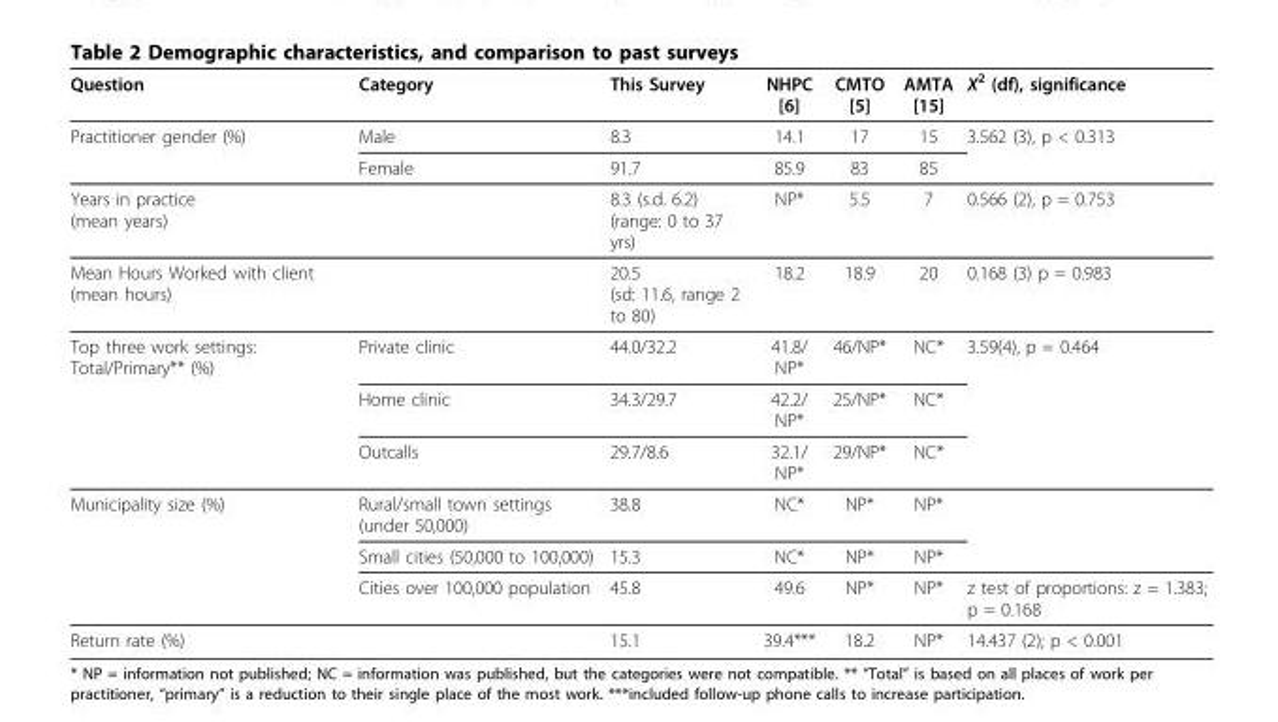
<table><thead><tr><td>Question</td><td>Category</td><td>This Survey</td><td>NHPC [6]</td><td>CMTO [5]</td><td>AMTA [15]</td><td>X<sup>2</sup> (df), significance</td></tr></thead><tbody><tr><td rowspan="2">Practitioner gender (%)</td><td>Male</td><td>8.3</td><td>14.1</td><td>17</td><td>15</td><td>3.562 (3), p &lt; 0.313</td></tr><tr><td>Female</td><td>91.7</td><td>85.9</td><td>83</td><td>85</td><td></td></tr><tr><td>Years in practice (mean years)</td><td></td><td>8.3 (s.d. 6.2) (range: 0 to 37 yrs)</td><td>NP*</td><td>5.5</td><td>7</td><td>0.566 (2), p = 0.753</td></tr><tr><td>Mean Hours Worked with client (mean hours)</td><td></td><td>20.5 (sd: 11.6, range 2 to 80)</td><td>18.2</td><td>18.9</td><td>20</td><td>0.168 (3) p = 0.983</td></tr><tr><td rowspan="3">Top three work settings: Total/Primary** (%)</td><td>Private clinic</td><td>44.0/32.2</td><td>41.8/ NP*</td><td>46/NP*</td><td>NC*</td><td>3.59(4), p = 0.464</td></tr><tr><td>Home clinic</td><td>34.3/29.7</td><td>42.2/ NP*</td><td>25/NP*</td><td>NC*</td><td></td></tr><tr><td>Outcalls</td><td>29.7/8.6</td><td>32.1/ NP*</td><td>29/NP*</td><td>NC*</td><td></td></tr><tr><td rowspan="3">Municipality size (%)</td><td>Rural/small town settings (under 50,000)</td><td>38.8</td><td>NC*</td><td>NP*</td><td>NP*</td><td></td></tr><tr><td>Small cities (50,000 to 100,000)</td><td>15.3</td><td>NC*</td><td>NP*</td><td>NP*</td><td></td></tr><tr><td>Cities over 100,000 population</td><td>45.8</td><td>49.6</td><td>NP*</td><td>NP*</td><td>z test of proportions: z = 1.383; p = 0.168</td></tr><tr><td>Return rate (%)</td><td></td><td>15.1</td><td>39.4***</td><td>18.2</td><td>NP*</td><td>14.437 (2); p &lt; 0.001</td></tr></tbody></table>